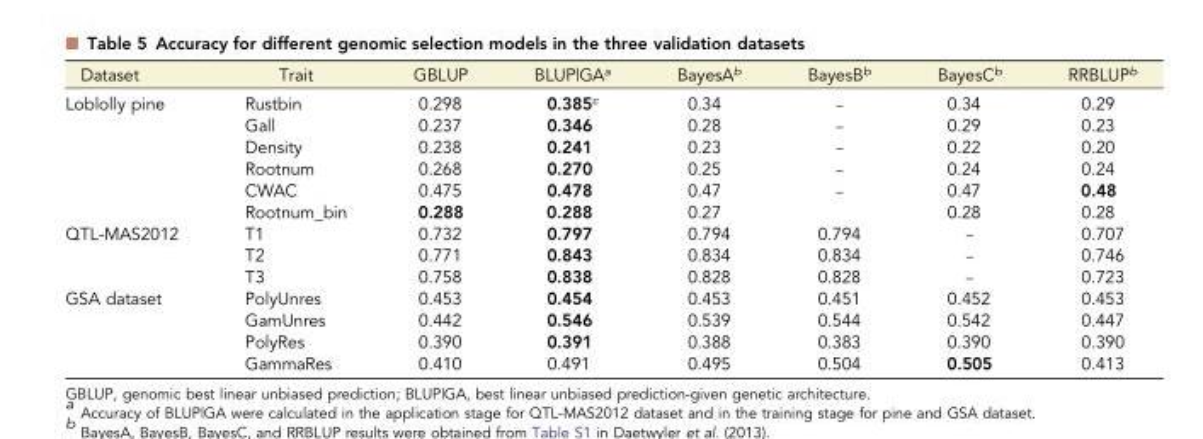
<table><thead><tr><td>Dataset</td><td>Trait</td><td>GBLUP</td><td>BLUP|GA<sup>a</sup></td><td>BayesA<sup>b</sup></td><td>BayesB<sup>b</sup></td><td>BayesC<sup>b</sup></td><td>RRBLUP<sup>b</sup></td></tr></thead><tbody><tr><td rowspan="6">Loblolly pine</td><td>Rustbin</td><td>0.298</td><td>0.385<sup>c</sup></td><td>0.34</td><td>–</td><td>0.34</td><td>0.29</td></tr><tr><td>Gall</td><td>0.237</td><td>0.346</td><td>0.28</td><td>–</td><td>0.29</td><td>0.23</td></tr><tr><td>Density</td><td>0.238</td><td>0.241</td><td>0.23</td><td>–</td><td>0.22</td><td>0.20</td></tr><tr><td>Rootnum</td><td>0.268</td><td>0.270</td><td>0.25</td><td>–</td><td>0.24</td><td>0.24</td></tr><tr><td>CWAC</td><td>0.475</td><td>0.478</td><td>0.47</td><td>–</td><td>0.47</td><td>0.48</td></tr><tr><td>Rootnum_bin</td><td>0.288</td><td>0.288</td><td>0.27</td><td></td><td>0.28</td><td>0.28</td></tr><tr><td rowspan="3">QTL-MAS2012</td><td>T1</td><td>0.732</td><td>0.797</td><td>0.794</td><td>0.794</td><td>–</td><td>0.707</td></tr><tr><td>T2</td><td>0.771</td><td>0.843</td><td>0.834</td><td>0.834</td><td>–</td><td>0.746</td></tr><tr><td>T3</td><td>0.758</td><td>0.838</td><td>0.828</td><td>0.828</td><td>–</td><td>0.723</td></tr><tr><td rowspan="4">GSA dataset</td><td>PolyUnres</td><td>0.453</td><td>0.454</td><td>0.453</td><td>0.451</td><td>0.452</td><td>0.453</td></tr><tr><td>GamUnres</td><td>0.442</td><td>0.546</td><td>0.539</td><td>0.544</td><td>0.542</td><td>0.447</td></tr><tr><td>PolyRes</td><td>0.390</td><td>0.391</td><td>0.388</td><td>0.383</td><td>0.390</td><td>0.390</td></tr><tr><td>GammaRes</td><td>0.410</td><td>0.491</td><td>0.495</td><td>0.504</td><td>0.505</td><td>0.413</td></tr></tbody></table>